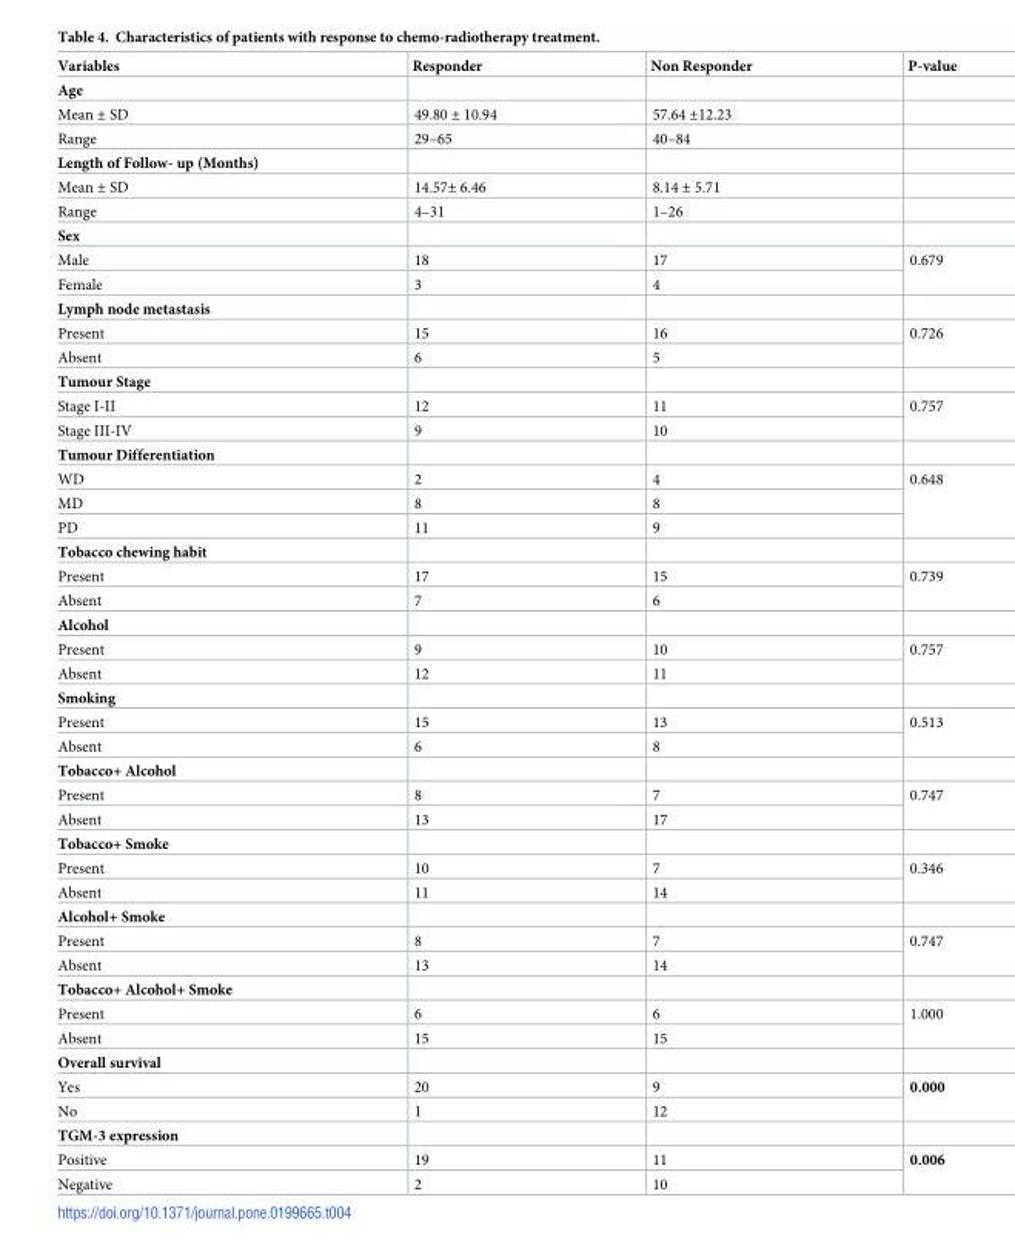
<table><thead><tr><td>Variables</td><td>Responder</td><td>Non Responder</td><td>P-value</td></tr></thead><tbody><tr><td colspan="4">Age</td></tr><tr><td>Mean ± SD</td><td>49.80 ± 10.94</td><td>57.64 ±12.23</td><td></td></tr><tr><td>Range</td><td>29–65</td><td>40–84</td><td></td></tr><tr><td colspan="4">Length of Follow- up (Months)</td></tr><tr><td>Mean ± SD</td><td>14.57± 6.46</td><td>8.14 ± 5.71</td><td></td></tr><tr><td>Range</td><td>4–31</td><td>1–26</td><td></td></tr><tr><td colspan="4">Sex</td></tr><tr><td>Male</td><td>18</td><td>17</td><td rowspan="2">0.679</td></tr><tr><td>Female</td><td>3</td><td>4</td></tr><tr><td colspan="4">Lymph node metastasis</td></tr><tr><td>Present</td><td>15</td><td>16</td><td rowspan="2">0.726</td></tr><tr><td>Absent</td><td>6</td><td>5</td></tr><tr><td colspan="4">Tumour Stage</td></tr><tr><td>Stage I-II</td><td>12</td><td>11</td><td rowspan="2">0.757</td></tr><tr><td>Stage III-IV</td><td>9</td><td>10</td></tr><tr><td colspan="4">Tumour Differentiation</td></tr><tr><td>WD</td><td>2</td><td>4</td><td rowspan="3">0.648</td></tr><tr><td>MD</td><td>8</td><td>8</td></tr><tr><td>PD</td><td>11</td><td>9</td></tr><tr><td colspan="4">Tobacco chewing habit</td></tr><tr><td>Present</td><td>17</td><td>15</td><td rowspan="2">0.739</td></tr><tr><td>Absent</td><td>7</td><td>6</td></tr><tr><td colspan="4">Alcohol</td></tr><tr><td>Present</td><td>9</td><td>10</td><td rowspan="2">0.757</td></tr><tr><td>Absent</td><td>12</td><td>11</td></tr><tr><td colspan="4">Smoking</td></tr><tr><td>Present</td><td>15</td><td>13</td><td rowspan="2">0.513</td></tr><tr><td>Absent</td><td>6</td><td>8</td></tr><tr><td colspan="4">Tobacco+ Alcohol</td></tr><tr><td>Present</td><td>8</td><td>7</td><td rowspan="2">0.747</td></tr><tr><td>Absent</td><td>13</td><td>17</td></tr><tr><td colspan="4">Tobacco+ Smoke</td></tr><tr><td>Present</td><td>10</td><td>7</td><td rowspan="2">0.346</td></tr><tr><td>Absent</td><td>11</td><td>14</td></tr><tr><td colspan="4">Alcohol+ Smoke</td></tr><tr><td>Present</td><td>8</td><td>7</td><td rowspan="2">0.747</td></tr><tr><td>Absent</td><td>13</td><td>14</td></tr><tr><td colspan="4">Tobacco+ Alcohol+ Smoke</td></tr><tr><td>Present</td><td>6</td><td>6</td><td rowspan="2">1.000</td></tr><tr><td>Absent</td><td>15</td><td>15</td></tr><tr><td colspan="4">Overall survival</td></tr><tr><td>Yes</td><td>20</td><td>9</td><td rowspan="2">0.000</td></tr><tr><td>No</td><td>1</td><td>12</td></tr><tr><td colspan="4">TGM-3 expression</td></tr><tr><td>Positive</td><td>19</td><td>11</td><td rowspan="2">0.006</td></tr><tr><td>Negative</td><td>2</td><td>10</td></tr></tbody></table>